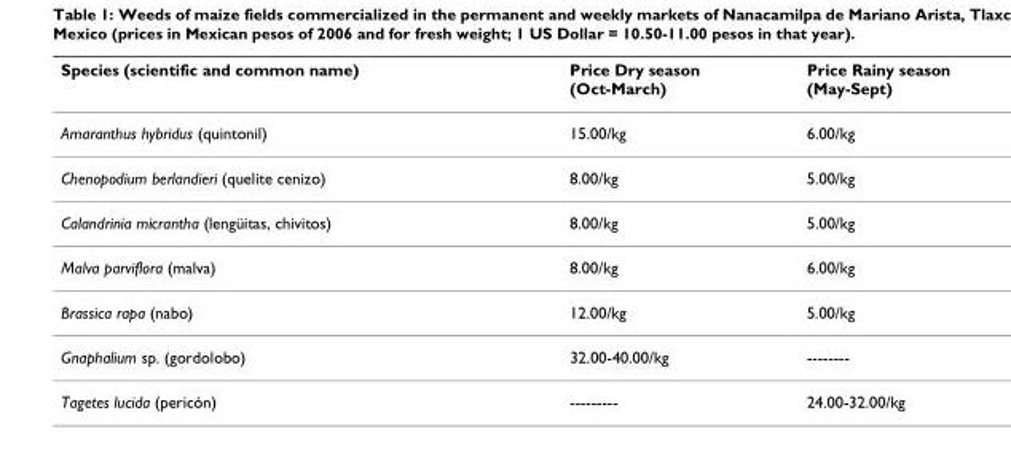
<table><thead><tr><td>Species (scientific and common name)</td><td>Price Dry season (Oct-March)</td><td>Price Rainy season (May-Sept)</td></tr></thead><tbody><tr><td>Amaranthus hybridus (quintonil)</td><td>15.00/kg</td><td>6.00/kg</td></tr><tr><td>Chenopodium berlandieri (quelite cenizo)</td><td>8.00/kg</td><td>5.00/kg</td></tr><tr><td>Calandrinia micrantha (lengüitas, chivitos)</td><td>8.00/kg</td><td>5.00/kg</td></tr><tr><td>Malva parviflora (malva)</td><td>8.00/kg</td><td>6.00/kg</td></tr><tr><td>Brassica rapa (nabo)</td><td>12.00/kg</td><td>5.00/kg</td></tr><tr><td>Gnaphalium sp. (gordolobo)</td><td>32.00-40.00/kg</td><td>--------</td></tr><tr><td>Tagetes lucida (pericón)</td><td>---------</td><td>24.00-32.00/kg</td></tr></tbody></table>